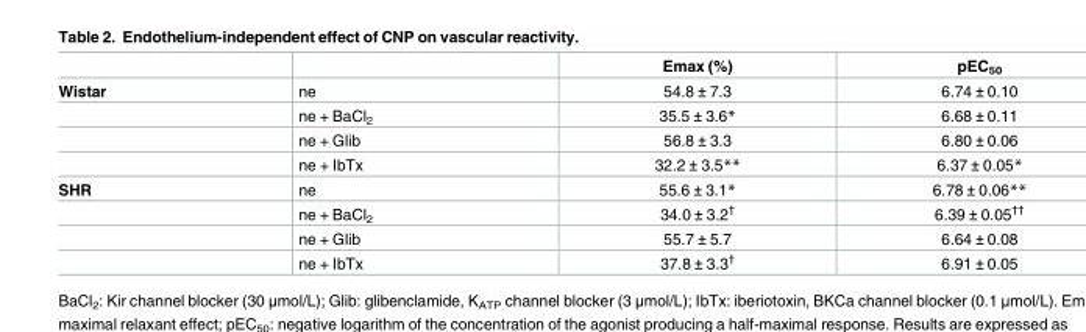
<table><thead><tr><td></td><td></td><td>Emax (%)</td><td>pEC<sub>50</sub></td></tr></thead><tbody><tr><td rowspan="4">Wistar</td><td>ne</td><td>54.8 ± 7.3</td><td>6.74 ± 0.10</td></tr><tr><td>ne + BaCl<sub>2</sub></td><td>35.5 ± 3.6*</td><td>6.68 ± 0.11</td></tr><tr><td>ne + Glib</td><td>56.8 ± 3.3</td><td>6.80 ± 0.06</td></tr><tr><td>ne + IbTx</td><td>32.2 ± 3.5**</td><td>6.37 ± 0.05*</td></tr><tr><td rowspan="4">SHR</td><td>ne</td><td>55.6 ± 3.1*</td><td>6.78 ± 0.06**</td></tr><tr><td>ne + BaCl<sub>2</sub></td><td>34.0 ± 3.2<sup>†</sup></td><td>6.39 ± 0.05<sup>††</sup></td></tr><tr><td>ne + Glib</td><td>55.7 ± 5.7</td><td>6.64 ± 0.08</td></tr><tr><td>ne + IbTx</td><td>37.8 ± 3.3<sup>†</sup></td><td>6.91 ± 0.05</td></tr></tbody></table>